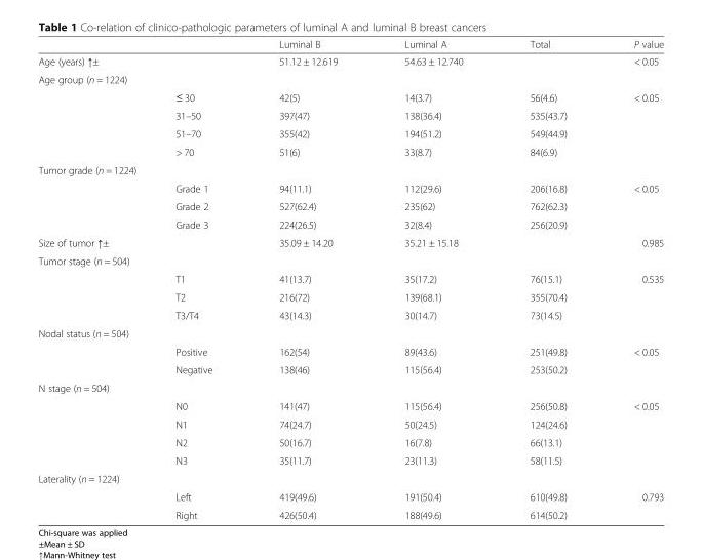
<table><thead><tr><td></td><td></td><td>Luminal B</td><td>Luminal A</td><td>Total</td><td>P value</td></tr></thead><tbody><tr><td>Age (years) ↑±</td><td></td><td>51.12 ± 12.619</td><td>54.63 ± 12.740</td><td></td><td>&lt; 0.05</td></tr><tr><td colspan="6">Age group (n = 1224)</td></tr><tr><td></td><td>≤ 30</td><td>42(5)</td><td>14(3.7)</td><td>56(4.6)</td><td rowspan="4">&lt; 0.05</td></tr><tr><td></td><td>31–50</td><td>397(47)</td><td>138(36.4)</td><td>535(43.7)</td></tr><tr><td></td><td>51–70</td><td>355(42)</td><td>194(51.2)</td><td>549(44.9)</td></tr><tr><td></td><td>&gt; 70</td><td>51(6)</td><td>33(8.7)</td><td>84(6.9)</td></tr><tr><td colspan="6">Tumor grade (n = 1224)</td></tr><tr><td></td><td>Grade 1</td><td>94(11.1)</td><td>112(29.6)</td><td>206(16.8)</td><td rowspan="3">&lt; 0.05</td></tr><tr><td></td><td>Grade 2</td><td>527(62.4)</td><td>235(62)</td><td>762(62.3)</td></tr><tr><td></td><td>Grade 3</td><td>224(26.5)</td><td>32(8.4)</td><td>256(20.9)</td></tr><tr><td>Size of tumor ↑±</td><td></td><td>35.09 ± 14.20</td><td>35.21 ± 15.18</td><td></td><td>0.985</td></tr><tr><td colspan="6">Tumor stage (n = 504)</td></tr><tr><td></td><td>T1</td><td>41(13.7)</td><td>35(17.2)</td><td>76(15.1)</td><td rowspan="3">0.535</td></tr><tr><td></td><td>T2</td><td>216(72)</td><td>139(68.1)</td><td>355(70.4)</td></tr><tr><td></td><td>T3/T4</td><td>43(14.3)</td><td>30(14.7)</td><td>73(14.5)</td></tr><tr><td colspan="6">Nodal status (n = 504)</td></tr><tr><td></td><td>Positive</td><td>162(54)</td><td>89(43.6)</td><td>251(49.8)</td><td rowspan="2">&lt; 0.05</td></tr><tr><td></td><td>Negative</td><td>138(46)</td><td>115(56.4)</td><td>253(50.2)</td></tr><tr><td colspan="6">N stage (n = 504)</td></tr><tr><td></td><td>N0</td><td>141(47)</td><td>115(56.4)</td><td>256(50.8)</td><td rowspan="4">&lt; 0.05</td></tr><tr><td></td><td>N1</td><td>74(24.7)</td><td>50(24.5)</td><td>124(24.6)</td></tr><tr><td></td><td>N2</td><td>50(16.7)</td><td>16(7.8)</td><td>66(13.1)</td></tr><tr><td></td><td>N3</td><td>35(11.7)</td><td>23(11.3)</td><td>58(11.5)</td></tr><tr><td colspan="6">Laterality (n = 1224)</td></tr><tr><td></td><td>Left</td><td>419(49.6)</td><td>191(50.4)</td><td>610(49.8)</td><td rowspan="2">0.793</td></tr><tr><td></td><td>Right</td><td>426(50.4)</td><td>188(49.6)</td><td>614(50.2)</td></tr></tbody></table>